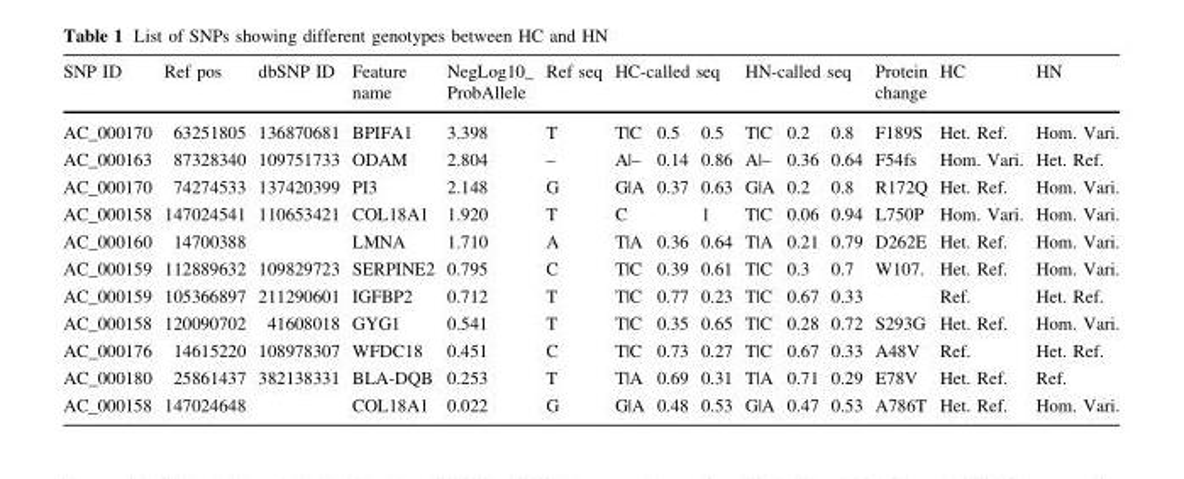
<table><thead><tr><td rowspan="2">SNP ID AC_000170</td><td rowspan="2">Ref pos 63251805</td><td rowspan="2">dbSNP ID 136870681</td><td rowspan="2">Feature name BPIFA1</td><td rowspan="2">NegLog10_ ProbAllele 3.398</td><td rowspan="2">Ref seq T</td><td colspan="3">HC-called seq</td><td colspan="3">HN-called seq</td><td rowspan="2">Protein change F189S</td><td rowspan="2">HC Het. Ref.</td><td rowspan="2">HN Hom. Vari.</td></tr><tr><td>T|C</td><td>0.5</td><td>0.5</td><td>T|C</td><td>0.2</td><td>0.8</td></tr></thead><tbody><tr><td>AC_000163</td><td>87328340</td><td>109751733</td><td>ODAM</td><td>2.804</td><td>–</td><td>A|–</td><td>0.14</td><td>0.86</td><td>A|–</td><td>0.36</td><td>0.64</td><td>F54fs</td><td>Hom. Vari.</td><td>Het. Ref.</td></tr><tr><td>AC_000170</td><td>74274533</td><td>137420399</td><td>PI3</td><td>2.148</td><td>G</td><td>G|A</td><td>0.37</td><td>0.63</td><td>G|A</td><td>0.2</td><td>0.8</td><td>R172Q</td><td>Het. Ref.</td><td>Hom. Vari.</td></tr><tr><td>AC_000158</td><td>147024541</td><td>110653421</td><td>COL18A1</td><td>1.920</td><td>T</td><td>C</td><td></td><td>1</td><td>T|C</td><td>0.06</td><td>0.94</td><td>L750P</td><td>Hom. Vari.</td><td>Hom. Vari.</td></tr><tr><td>AC_000160</td><td>14700388</td><td></td><td>LMNA</td><td>1.710</td><td>A</td><td>T|A</td><td>0.36</td><td>0.64</td><td>T|A</td><td>0.21</td><td>0.79</td><td>D262E</td><td>Het. Ref.</td><td>Hom. Vari.</td></tr><tr><td>AC_000159</td><td>112889632</td><td>109829723</td><td>SERPINE2</td><td>0.795</td><td>C</td><td>T|C</td><td>0.39</td><td>0.61</td><td>T|C</td><td>0.3</td><td>0.7</td><td>W107.</td><td>Het. Ref.</td><td>Hom. Vari.</td></tr><tr><td>AC_000159</td><td>105366897</td><td>211290601</td><td>IGFBP2</td><td>0.712</td><td>T</td><td>T|C</td><td>0.77</td><td>0.23</td><td>T|C</td><td>0.67</td><td>0.33</td><td></td><td>Ref.</td><td>Het. Ref.</td></tr><tr><td>AC_000158</td><td>120090702</td><td>41608018</td><td>GYG1</td><td>0.541</td><td>T</td><td>T|C</td><td>0.35</td><td>0.65</td><td>T|C</td><td>0.28</td><td>0.72</td><td>S293G</td><td>Het. Ref.</td><td>Hom. Vari.</td></tr><tr><td>AC_000176</td><td>14615220</td><td>108978307</td><td>WFDC18</td><td>0.451</td><td>C</td><td>T|C</td><td>0.73</td><td>0.27</td><td>T|C</td><td>0.67</td><td>0.33</td><td>A48V</td><td>Ref.</td><td>Het. Ref.</td></tr><tr><td>AC_000180</td><td>25861437</td><td>382138331</td><td>BLA-DQB</td><td>0.253</td><td>T</td><td>T|A</td><td>0.69</td><td>0.31</td><td>T|A</td><td>0.71</td><td>0.29</td><td>E78V</td><td>Het. Ref.</td><td>Ref.</td></tr><tr><td>AC_000158</td><td>147024648</td><td></td><td>COL18A1</td><td>0.022</td><td>G</td><td>G|A</td><td>0.48</td><td>0.53</td><td>G|A</td><td>0.47</td><td>0.53</td><td>A786T</td><td>Het. Ref.</td><td>Hom. Vari.</td></tr></tbody></table>